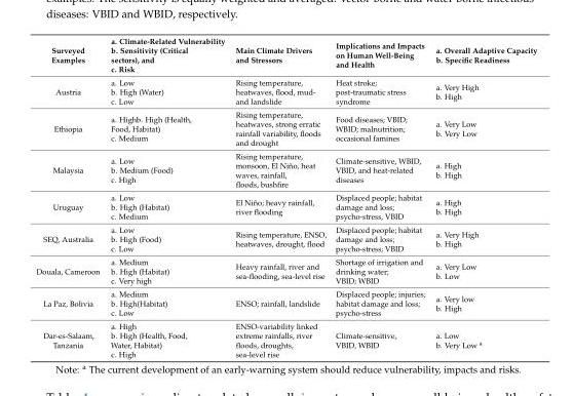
<table><thead><tr><td>Surveyed Examples</td><td>a. Climate-Related Vulnerability b. Sensitivity (Critical sectors), and c. Risk</td><td>Main Climate Drivers and Stressors</td><td>Implications and Impacts on Human Well-Being and Health</td><td>a. Overall Adaptive Capacity b. Specific Readiness</td></tr></thead><tbody><tr><td>Austria</td><td>a. Low b. High (Water) c. Low</td><td>Rising temperature, heatwaves, flood, mud- and landslide</td><td>Heat stroke; post-traumatic stress syndrome</td><td>a. Very High b. High</td></tr><tr><td>Ethiopia</td><td>a. Highb. High (Health, Food, Habitat) c. Medium</td><td>Rising temperature, heatwaves, strong erratic rainfall variability, floods and drought</td><td>Food diseases; VBID; WBID; malnutrition; occasional famines</td><td>a. Very Low b. Very Low</td></tr><tr><td>Malaysia</td><td>a. Low b. Medium (Food) c. High</td><td>Rising temperature, monsoon, El Niño, heat waves, rainfall, floods, bushfire</td><td>Climate-sensitive, WBID, VBID, and heat-related diseases</td><td>a. High b. High</td></tr><tr><td>Uruguay</td><td>a. Low b. High (Habitat) c. Medium</td><td>El Niño; heavy rainfall, river flooding</td><td>Displaced people; habitat damage and loss; psycho-stress, VBID</td><td>a. High b. High</td></tr><tr><td>SEQ, Australia</td><td>a. Low b. High (Food) c. Low</td><td>Rising temperature, ENSO, heatwaves, drought, flood</td><td>Displaced people; habitat damage and loss; psycho-stress; VBID</td><td>a. Very High b. High</td></tr><tr><td>Douala, Cameroon</td><td>a. Medium b. High (Habitat) c. Very high</td><td>Heavy rainfall, river and sea-flooding, sea-level rise</td><td>Shortage of irrigation and drinking water; VBID; WBID</td><td>a. Very Low b. Low</td></tr><tr><td>La Paz, Bolivia</td><td>a. Medium b. High(Habitat) c. Low</td><td>ENSO; rainfall, landslide</td><td>Displaced people; injuries; habitat damage and loss; psycho-stress</td><td>a. Very low b. High</td></tr><tr><td>Dar-es-Salaam, Tanzania</td><td>a. High b. High (Health, Food, Water, Habitat) c. High</td><td>ENSO-variability linked extreme rainfalls, river floods, droughts, sea-level rise</td><td>Climate-sensitive, VBID, WBID</td><td>a. Low b. Very Low <sup>a</sup></td></tr></tbody></table>